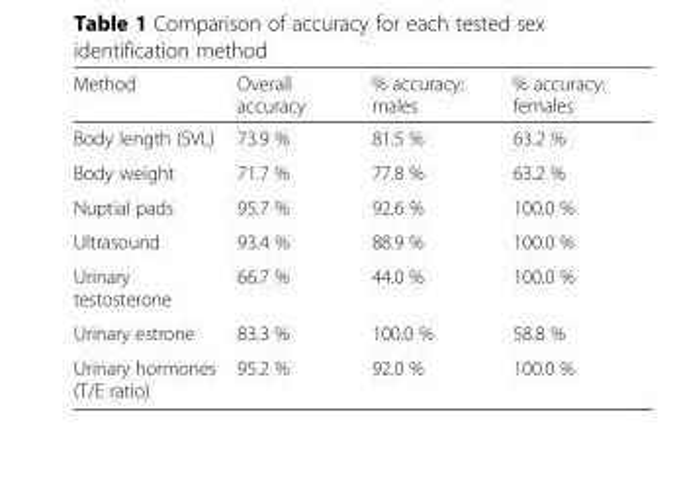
<table><thead><tr><td>Method</td><td>Overall accuracy</td><td>% accuracy: males</td><td>% accuracy: females</td></tr></thead><tbody><tr><td>Body length (SVL)</td><td>73.9 %</td><td>81.5 %</td><td>63.2 %</td></tr><tr><td>Body weight</td><td>71.7 %</td><td>77.8 %</td><td>63.2 %</td></tr><tr><td>Nuptial pads</td><td>95.7 %</td><td>92.6 %</td><td>100.0 %</td></tr><tr><td>Ultrasound</td><td>93.4 %</td><td>88.9 %</td><td>100.0 %</td></tr><tr><td>Urinary testosterone</td><td>66.7 %</td><td>44.0 %</td><td>100.0 %</td></tr><tr><td>Urinary estrone</td><td>83.3 %</td><td>100.0 %</td><td>58.8 %</td></tr><tr><td>Urinary hormones (T/E ratio)</td><td>95.2 %</td><td>92.0 %</td><td>100.0 %</td></tr></tbody></table>